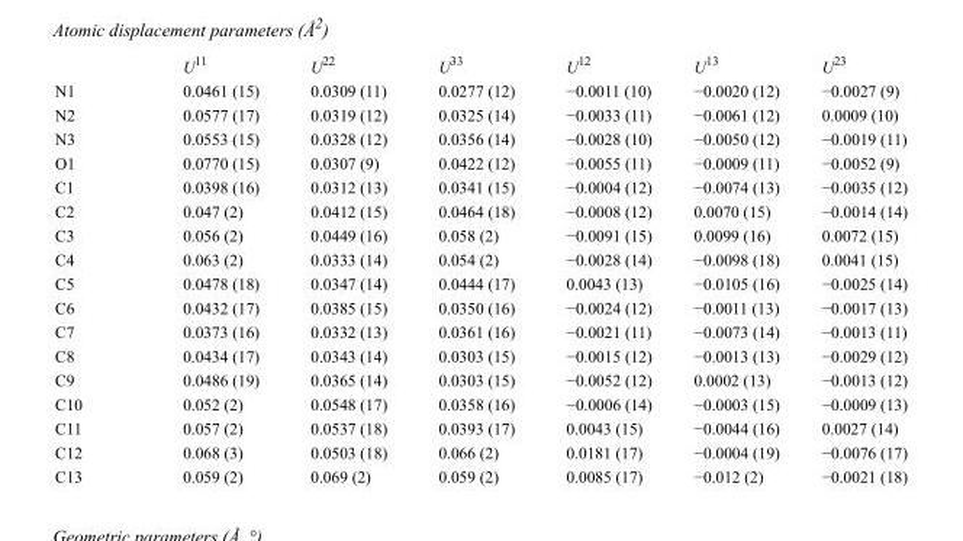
<table><thead><tr><td></td><td>U<sup>11</sup></td><td>U<sup>22</sup></td><td>U<sup>33</sup></td><td>U<sup>12</sup></td><td>U<sup>13</sup></td><td>U<sup>23</sup></td></tr></thead><tbody><tr><td>N1</td><td>0.0461 (15)</td><td>0.0309 (11)</td><td>0.0277 (12)</td><td>−0.0011 (10)</td><td>−0.0020 (12)</td><td>−0.0027 (9)</td></tr><tr><td>N2</td><td>0.0577 (17)</td><td>0.0319 (12)</td><td>0.0325 (14)</td><td>−0.0033 (11)</td><td>−0.0061 (12)</td><td>0.0009 (10)</td></tr><tr><td>N3</td><td>0.0553 (15)</td><td>0.0328 (12)</td><td>0.0356 (14)</td><td>−0.0028 (10)</td><td>−0.0050 (12)</td><td>−0.0019 (11)</td></tr><tr><td>O1</td><td>0.0770 (15)</td><td>0.0307 (9)</td><td>0.0422 (12)</td><td>−0.0055 (11)</td><td>−0.0009 (11)</td><td>−0.0052 (9)</td></tr><tr><td>C1</td><td>0.0398 (16)</td><td>0.0312 (13)</td><td>0.0341 (15)</td><td>−0.0004 (12)</td><td>−0.0074 (13)</td><td>−0.0035 (12)</td></tr><tr><td>C2</td><td>0.047 (2)</td><td>0.0412 (15)</td><td>0.0464 (18)</td><td>−0.0008 (12)</td><td>0.0070 (15)</td><td>−0.0014 (14)</td></tr><tr><td>C3</td><td>0.056 (2)</td><td>0.0449 (16)</td><td>0.058 (2)</td><td>−0.0091 (15)</td><td>0.0099 (16)</td><td>0.0072 (15)</td></tr><tr><td>C4</td><td>0.063 (2)</td><td>0.0333 (14)</td><td>0.054 (2)</td><td>−0.0028 (14)</td><td>−0.0098 (18)</td><td>0.0041 (15)</td></tr><tr><td>C5</td><td>0.0478 (18)</td><td>0.0347 (14)</td><td>0.0444 (17)</td><td>0.0043 (13)</td><td>−0.0105 (16)</td><td>−0.0025 (14)</td></tr><tr><td>C6</td><td>0.0432 (17)</td><td>0.0385 (15)</td><td>0.0350 (16)</td><td>−0.0024 (12)</td><td>−0.0011 (13)</td><td>−0.0017 (13)</td></tr><tr><td>C7</td><td>0.0373 (16)</td><td>0.0332 (13)</td><td>0.0361 (16)</td><td>−0.0021 (11)</td><td>−0.0073 (14)</td><td>−0.0013 (11)</td></tr><tr><td>C8</td><td>0.0434 (17)</td><td>0.0343 (14)</td><td>0.0303 (15)</td><td>−0.0015 (12)</td><td>−0.0013 (13)</td><td>−0.0029 (12)</td></tr><tr><td>C9</td><td>0.0486 (19)</td><td>0.0365 (14)</td><td>0.0303 (15)</td><td>−0.0052 (12)</td><td>0.0002 (13)</td><td>−0.0013 (12)</td></tr><tr><td>C10</td><td>0.052 (2)</td><td>0.0548 (17)</td><td>0.0358 (16)</td><td>−0.0006 (14)</td><td>−0.0003 (15)</td><td>−0.0009 (13)</td></tr><tr><td>C11</td><td>0.057 (2)</td><td>0.0537 (18)</td><td>0.0393 (17)</td><td>0.0043 (15)</td><td>−0.0044 (16)</td><td>0.0027 (14)</td></tr><tr><td>C12</td><td>0.068 (3)</td><td>0.0503 (18)</td><td>0.066 (2)</td><td>0.0181 (17)</td><td>−0.0004 (19)</td><td>−0.0076 (17)</td></tr><tr><td>C13</td><td>0.059 (2)</td><td>0.069 (2)</td><td>0.059 (2)</td><td>0.0085 (17)</td><td>−0.012 (2)</td><td>−0.0021 (18)</td></tr></tbody></table>